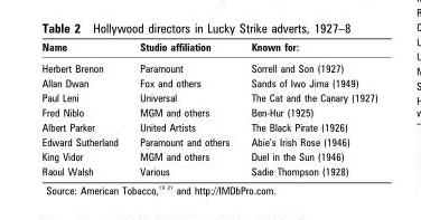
<table><thead><tr><td>Name</td><td>Studio affiliation</td><td>Known for:</td></tr></thead><tbody><tr><td>Herbert Brenon</td><td>Paramount</td><td>Sorrell and Son (1927)</td></tr><tr><td>Allan Dwan</td><td>Fox and others</td><td>Sands of Iwo Jima (1949)</td></tr><tr><td>Paul Leni</td><td>Universal</td><td>The Cat and the Canary (1927)</td></tr><tr><td>Fred Niblo</td><td>MGM and others</td><td>Ben-Hur (1925)</td></tr><tr><td>Albert Parker</td><td>United Artists</td><td>The Black Pirate (1926)</td></tr><tr><td>Edward Sutherland</td><td>Paramount and others</td><td>Abie’s Irish Rose (1946)</td></tr><tr><td>King Vidor</td><td>MGM and others</td><td>Duel in the Sun (1946)</td></tr><tr><td>Raoul Walsh</td><td>Various</td><td>Sadie Thompson (1928)</td></tr></tbody></table>